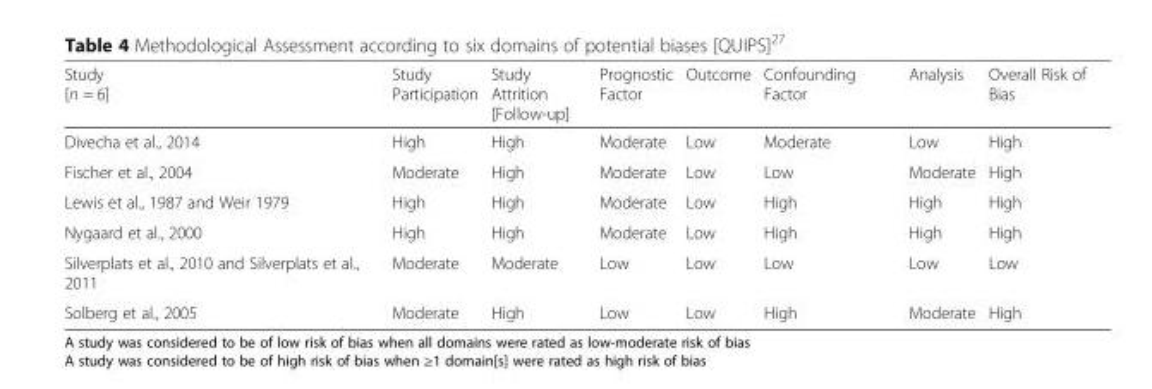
<table><thead><tr><td>Study [n = 6]</td><td>Study Participation</td><td>Study Attrition [Follow-up]</td><td>Prognostic Factor</td><td>Outcome</td><td>Confounding Factor</td><td>Analysis</td><td>Overall Risk of Bias</td></tr></thead><tbody><tr><td>Divecha et al., 2014</td><td>High</td><td>High</td><td>Moderate</td><td>Low</td><td>Moderate</td><td>Low</td><td>High</td></tr><tr><td>Fischer et al., 2004</td><td>Moderate</td><td>High</td><td>Moderate</td><td>Low</td><td>Low</td><td>Moderate</td><td>High</td></tr><tr><td>Lewis et al., 1987 and Weir 1979</td><td>High</td><td>High</td><td>Moderate</td><td>Low</td><td>High</td><td>High</td><td>High</td></tr><tr><td>Nygaard et al., 2000</td><td>High</td><td>High</td><td>Moderate</td><td>Low</td><td>High</td><td>High</td><td>High</td></tr><tr><td>Silverplats et al., 2010 and Silverplats et al., 2011</td><td>Moderate</td><td>Moderate</td><td>Low</td><td>Low</td><td>Low</td><td>Low</td><td>Low</td></tr><tr><td>Solberg et al., 2005</td><td>Moderate</td><td>High</td><td>Low</td><td>Low</td><td>High</td><td>Moderate</td><td>High</td></tr></tbody></table>